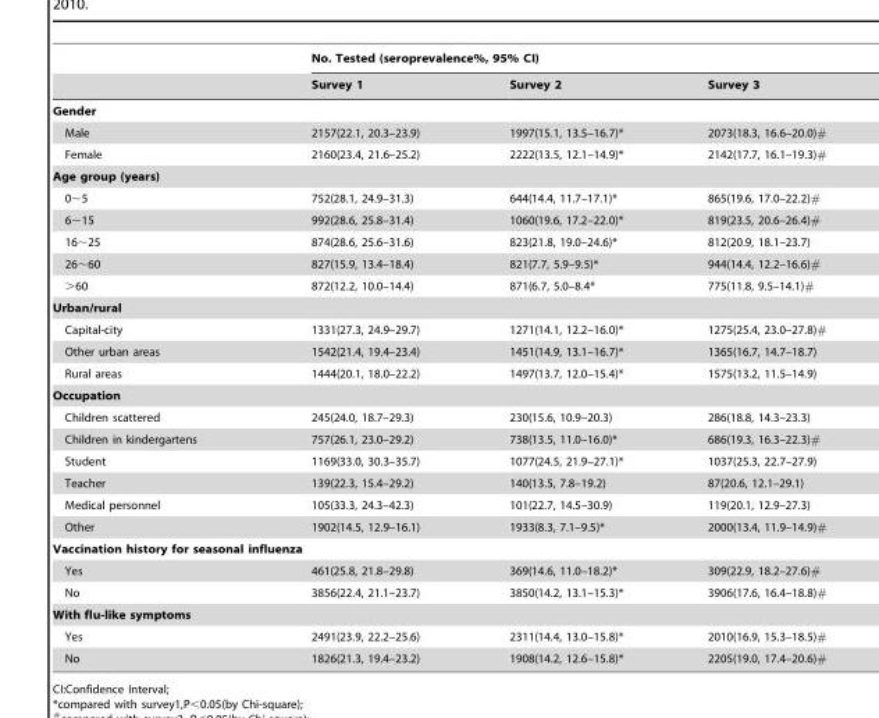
<table><thead><tr><td rowspan="2"></td><td colspan="3">No. Tested (seroprevalence%, 95% CI)</td></tr><tr><td>Survey 1</td><td>Survey 2</td><td>Survey 3</td></tr></thead><tbody><tr><td colspan="4">Gender</td></tr><tr><td>Male</td><td>2157(22.1, 20.3–23.9)</td><td>1997(15.1, 13.5–16.7)*</td><td>2073(18.3, 16.6–20.0)#</td></tr><tr><td>Female</td><td>2160(23.4, 21.6–25.2)</td><td>2222(13.5, 12.1–14.9)*</td><td>2142(17.7, 16.1–19.3)#</td></tr><tr><td colspan="4">Age group (years)</td></tr><tr><td>0∼5</td><td>752(28.1, 24.9–31.3)</td><td>644(14.4, 11.7–17.1)*</td><td>865(19.6, 17.0–22.2)#</td></tr><tr><td>6∼15</td><td>992(28.6, 25.8–31.4)</td><td>1060(19.6, 17.2–22.0)*</td><td>819(23.5, 20.6–26.4)#</td></tr><tr><td>16∼25</td><td>874(28.6, 25.6–31.6)</td><td>823(21.8, 19.0–24.6)*</td><td>812(20.9, 18.1–23.7)</td></tr><tr><td>26∼60</td><td>827(15.9, 13.4–18.4)</td><td>821(7.7, 5.9–9.5)*</td><td>944(14.4, 12.2–16.6)#</td></tr><tr><td>&gt;60</td><td>872(12.2, 10.0–14.4)</td><td>871(6.7, 5.0–8.4*</td><td>775(11.8, 9.5–14.1)#</td></tr><tr><td colspan="4">Urban/rural</td></tr><tr><td>Capital-city</td><td>1331(27.3, 24.9–29.7)</td><td>1271(14.1, 12.2–16.0)*</td><td>1275(25.4, 23.0–27.8)#</td></tr><tr><td>Other urban areas</td><td>1542(21.4, 19.4–23.4)</td><td>1451(14.9, 13.1–16.7)*</td><td>1365(16.7, 14.7–18.7)</td></tr><tr><td>Rural areas</td><td>1444(20.1, 18.0–22.2)</td><td>1497(13.7, 12.0–15.4)*</td><td>1575(13.2, 11.5–14.9)</td></tr><tr><td colspan="4">Occupation</td></tr><tr><td>Children scattered</td><td>245(24.0, 18.7–29.3)</td><td>230(15.6, 10.9–20.3)</td><td>286(18.8, 14.3–23.3)</td></tr><tr><td>Children in kindergartens</td><td>757(26.1, 23.0–29.2)</td><td>738(13.5, 11.0–16.0)*</td><td>686(19.3, 16.3–22.3)#</td></tr><tr><td>Student</td><td>1169(33.0, 30.3–35.7)</td><td>1077(24.5, 21.9–27.1)*</td><td>1037(25.3, 22.7–27.9)</td></tr><tr><td>Teacher</td><td>139(22.3, 15.4–29.2)</td><td>140(13.5, 7.8–19.2)</td><td>87(20.6, 12.1–29.1)</td></tr><tr><td>Medical personnel</td><td>105(33.3, 24.3–42.3)</td><td>101(22.7, 14.5–30.9)</td><td>119(20.1, 12.9–27.3)</td></tr><tr><td>Other</td><td>1902(14.5, 12.9–16.1)</td><td>1933(8.3, 7.1–9.5)*</td><td>2000(13.4, 11.9–14.9)#</td></tr><tr><td colspan="4">Vaccination history for seasonal influenza</td></tr><tr><td>Yes</td><td>461(25.8, 21.8–29.8)</td><td>369(14.6, 11.0–18.2)*</td><td>309(22.9, 18.2–27.6)#</td></tr><tr><td>No</td><td>3856(22.4, 21.1–23.7)</td><td>3850(14.2, 13.1–15.3)*</td><td>3906(17.6, 16.4–18.8)#</td></tr><tr><td colspan="4">With flu-like symptoms</td></tr><tr><td>Yes</td><td>2491(23.9, 22.2–25.6)</td><td>2311(14.4, 13.0–15.8)*</td><td>2010(16.9, 15.3–18.5)#</td></tr><tr><td>No</td><td>1826(21.3, 19.4–23.2)</td><td>1908(14.2, 12.6–15.8)*</td><td>2205(19.0, 17.4–20.6)#</td></tr></tbody></table>